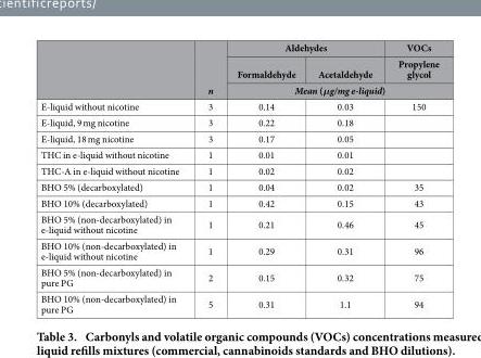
<table><thead><tr><td rowspan="3"></td><td rowspan="3">n</td><td colspan="2">Aldehydes</td><td rowspan="2">VOCs Propylene glycol</td></tr><tr><td>Formaldehyde</td><td>Acetaldehyde</td></tr><tr><td colspan="3">Mean (μg/mg e-liquid)</td></tr></thead><tbody><tr><td>E-liquid without nicotine</td><td>3</td><td>0.14</td><td>0.03</td><td>150</td></tr><tr><td>E-liquid, 9 mg nicotine</td><td>3</td><td>0.22</td><td>0.18</td><td></td></tr><tr><td>E-liquid, 18 mg nicotine</td><td>3</td><td>0.17</td><td>0.05</td><td></td></tr><tr><td>THC in e-liquid without nicotine</td><td>1</td><td>0.01</td><td>0.01</td><td></td></tr><tr><td>THC-A in e-liquid without nicotine</td><td>1</td><td>0.02</td><td>0.02</td><td></td></tr><tr><td>BHO 5% (decarboxylated)</td><td>1</td><td>0.04</td><td>0.02</td><td>35</td></tr><tr><td>BHO 10% (decarboxylated)</td><td>1</td><td>0.42</td><td>0.15</td><td>43</td></tr><tr><td>BHO 5% (non-decarboxylated) in e-liquid without nicotine</td><td>1</td><td>0.21</td><td>0.46</td><td>45</td></tr><tr><td>BHO 10% (non-decarboxylated) in e-liquid without nicotine</td><td>1</td><td>0.29</td><td>0.31</td><td>96</td></tr><tr><td>BHO 5% (non-decarboxylated) in pure PG</td><td>2</td><td>0.15</td><td>0.32</td><td>75</td></tr><tr><td>BHO 10% (non-decarboxylated) in pure PG</td><td>5</td><td>0.31</td><td>1.1</td><td>94</td></tr></tbody></table>